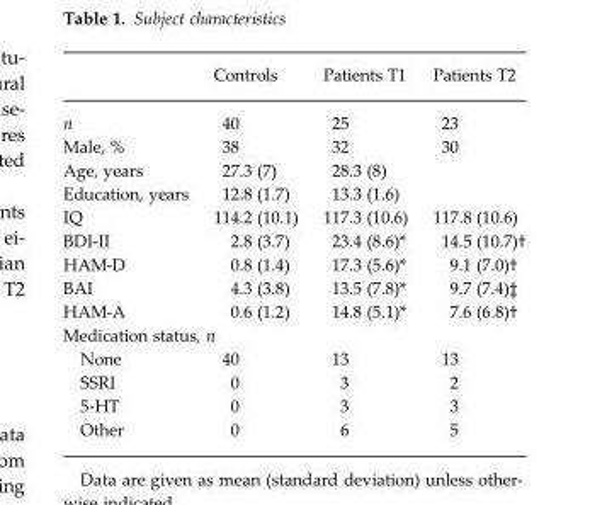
<table><thead><tr><td></td><td>Controls</td><td>Patients T1</td><td>Patients T2</td></tr></thead><tbody><tr><td>n</td><td>40</td><td>25</td><td>23</td></tr><tr><td>Male, %</td><td>38</td><td>32</td><td>30</td></tr><tr><td>Age, years</td><td>27.3 (7)</td><td>28.3 (8)</td><td></td></tr><tr><td>Education, years</td><td>12.8 (1.7)</td><td>13.3 (1.6)</td><td></td></tr><tr><td>IQ</td><td>114.2 (10.1)</td><td>117.3 (10.6)</td><td>117.8 (10.6)</td></tr><tr><td>BDI-II</td><td>2.8 (3.7)</td><td>23.4 (8.6)*</td><td>14.5 (10.7)†</td></tr><tr><td>HAM-D</td><td>0.8 (1.4)</td><td>17.3 (5.6)*</td><td>9.1 (7.0)†</td></tr><tr><td>BAI</td><td>4.3 (3.8)</td><td>13.5 (7.8)*</td><td>9.7 (7.4)‡</td></tr><tr><td>HAM-A</td><td>0.6 (1.2)</td><td>14.8 (5.1)*</td><td>7.6 (6.8)†</td></tr><tr><td colspan="4">Medication status, n</td></tr><tr><td>None</td><td>40</td><td>13</td><td>13</td></tr><tr><td>SSRI</td><td>0</td><td>3</td><td>2</td></tr><tr><td>5-HT</td><td>0</td><td>3</td><td>3</td></tr><tr><td>Other</td><td>0</td><td>6</td><td>5</td></tr></tbody></table>